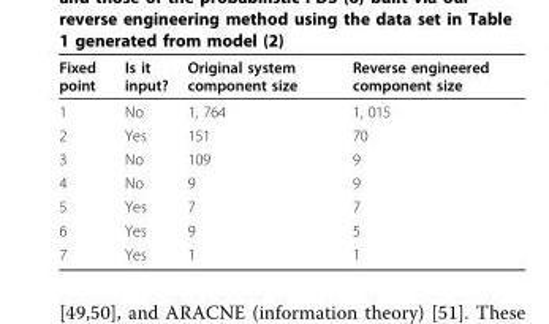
<table><thead><tr><td>Fixed point</td><td>Is it input?</td><td>Original system component size</td><td>Reverse engineered component size</td></tr></thead><tbody><tr><td>1</td><td>No</td><td>1, 764</td><td>1, 015</td></tr><tr><td>2</td><td>Yes</td><td>151</td><td>70</td></tr><tr><td>3</td><td>No</td><td>109</td><td>9</td></tr><tr><td>4</td><td>No</td><td>9</td><td>9</td></tr><tr><td>5</td><td>Yes</td><td>7</td><td>7</td></tr><tr><td>6</td><td>Yes</td><td>9</td><td>5</td></tr><tr><td>7</td><td>Yes</td><td>1</td><td>1</td></tr></tbody></table>